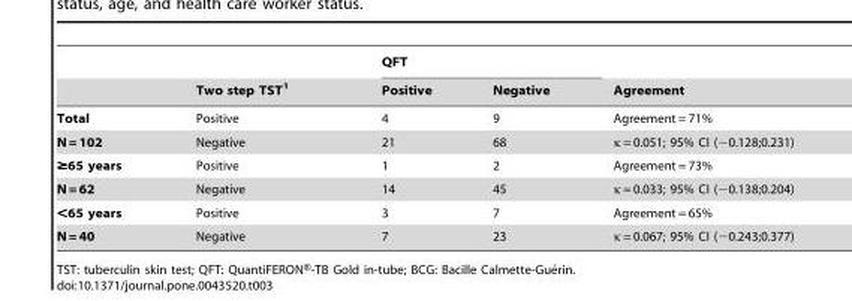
<table><thead><tr><td rowspan="2"></td><td rowspan="2">Two step TST<sup>1</sup></td><td colspan="2">QFT</td><td rowspan="2">Agreement</td></tr><tr><td>Positive</td><td>Negative</td></tr></thead><tbody><tr><td>Total</td><td>Positive</td><td>4</td><td>9</td><td>Agreement = 71%</td></tr><tr><td>N = 102</td><td>Negative</td><td>21</td><td>68</td><td>κ = 0.051; 95% CI (−0.128;0.231)</td></tr><tr><td>≥65 years</td><td>Positive</td><td>1</td><td>2</td><td>Agreement = 73%</td></tr><tr><td>N = 62</td><td>Negative</td><td>14</td><td>45</td><td>κ = 0.033; 95% CI (−0.138;0.204)</td></tr><tr><td>&lt;65 years</td><td>Positive</td><td>3</td><td>7</td><td>Agreement = 65%</td></tr><tr><td>N = 40</td><td>Negative</td><td>7</td><td>23</td><td>κ = 0.067; 95% CI (−0.243;0.377)</td></tr></tbody></table>